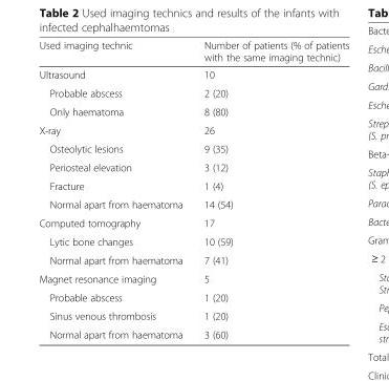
<table><thead><tr><td>Used imaging technic</td><td>Number of patients (% of patients with the same imaging technic)</td></tr></thead><tbody><tr><td>Ultrasound</td><td>10</td></tr><tr><td>Probable abscess</td><td>2 (20)</td></tr><tr><td>Only haematoma</td><td>8 (80)</td></tr><tr><td>X-ray</td><td>26</td></tr><tr><td>Osteolytic lesions</td><td>9 (35)</td></tr><tr><td>Periosteal elevation</td><td>3 (12)</td></tr><tr><td>Fracture</td><td>1 (4)</td></tr><tr><td>Normal apart from haematoma</td><td>14 (54)</td></tr><tr><td>Computed tomography</td><td>17</td></tr><tr><td>Lytic bone changes</td><td>10 (59)</td></tr><tr><td>Normal apart from haematoma</td><td>7 (41)</td></tr><tr><td>Magnet resonance imaging</td><td>5</td></tr><tr><td>Probable abscess</td><td>1 (20)</td></tr><tr><td>Sinus venous thrombosis</td><td>1 (20)</td></tr><tr><td>Normal apart from haematoma</td><td>3 (60)</td></tr></tbody></table>